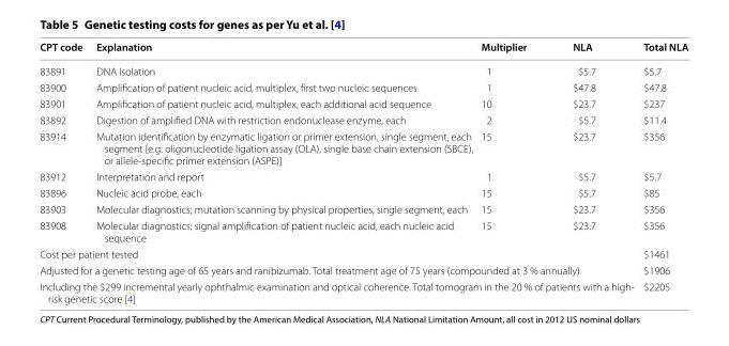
<table><thead><tr><td>CPT code</td><td>Explanation</td><td>Multiplier</td><td>NLA</td><td>Total NLA</td></tr></thead><tbody><tr><td>83891</td><td>DNA Isolation</td><td>1</td><td>$5.7</td><td>$5.7</td></tr><tr><td>83900</td><td>Amplification of patient nucleic acid, multiplex, first two nucleic sequences</td><td>1</td><td>$47.8</td><td>$47.8</td></tr><tr><td>83901</td><td>Amplification of patient nucleic acid, multiplex, each additional acid sequence</td><td>10</td><td>$23.7</td><td>$237</td></tr><tr><td>83892</td><td>Digestion of amplified DNA with restriction endonuclease enzyme, each</td><td>2</td><td>$5.7</td><td>$11.4</td></tr><tr><td>83914</td><td>Mutation identification by enzymatic ligation or primer extension, single segment, each segment [e.g. oligonucleotide ligation assay (OLA), single base chain extension (SBCE), or allele-specific primer extension (ASPE)]</td><td>15</td><td>$23.7</td><td>$356</td></tr><tr><td>83912</td><td>Interpretation and report</td><td>1</td><td>$5.7</td><td>$5.7</td></tr><tr><td>83896</td><td>Nucleic acid probe, each</td><td>15</td><td>$5.7</td><td>$85</td></tr><tr><td>83903</td><td>Molecular diagnostics; mutation scanning by physical properties, single segment, each</td><td>15</td><td>$23.7</td><td>$356</td></tr><tr><td>83908</td><td>Molecular diagnostics; signal amplification of patient nucleic acid, each nucleic acid sequence</td><td>15</td><td>$23.7</td><td>$356</td></tr><tr><td colspan="4">Cost per patient tested</td><td>$1461</td></tr><tr><td colspan="4">Adjusted for a genetic testing age of 65 years and ranibizumab. Total treatment age of 75 years (compounded at 3 % annually)</td><td>$1906</td></tr><tr><td colspan="4">Including the $299 incremental yearly ophthalmic examination and optical coherence. Total tomogram in the 20 % of patients with a high- risk genetic score [4]</td><td>$2205</td></tr></tbody></table>